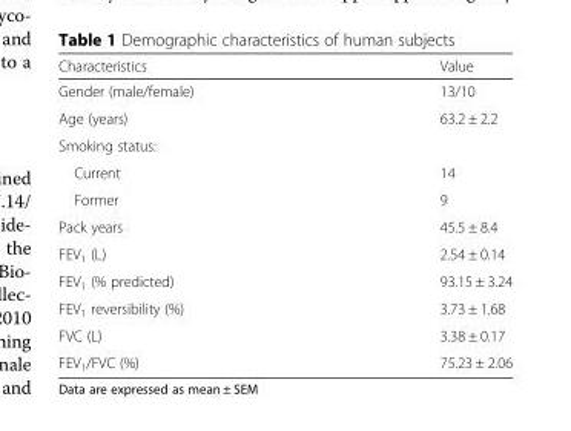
<table><thead><tr><td>Characteristics</td><td>Value</td></tr></thead><tbody><tr><td>Gender (male/female)</td><td>13/10</td></tr><tr><td>Age (years)</td><td>63.2 ± 2.2</td></tr><tr><td colspan="2">Smoking status:</td></tr><tr><td>Current</td><td>14</td></tr><tr><td>Former</td><td>9</td></tr><tr><td>Pack years</td><td>45.5 ± 8.4</td></tr><tr><td>FEV<sub>1</sub> (L)</td><td>2.54 ± 0.14</td></tr><tr><td>FEV<sub>1</sub> (% predicted)</td><td>93.15 ± 3.24</td></tr><tr><td>FEV<sub>1</sub> reversibility (%)</td><td>3.73 ± 1.68</td></tr><tr><td>FVC (L)</td><td>3.38 ± 0.17</td></tr><tr><td>FEV<sub>1</sub>/FVC (%)</td><td>75.23 ± 2.06</td></tr></tbody></table>